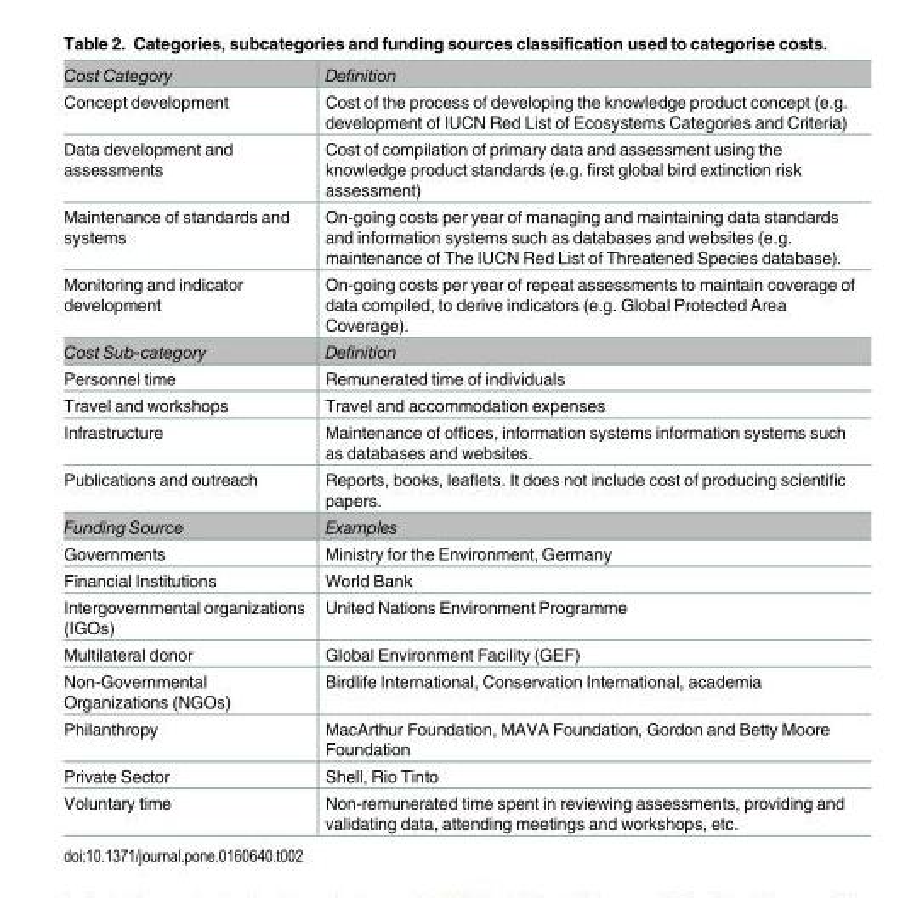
<table><tbody><tr><td>Cost Category</td><td>Definition</td></tr><tr><td>Concept development</td><td>Cost of the process of developing the knowledge product concept (e.g. development of IUCN Red List of Ecosystems Categories and Criteria)</td></tr><tr><td>Data development and assessments</td><td>Cost of compilation of primary data and assessment using the knowledge product standards (e.g. first global bird extinction risk assessment)</td></tr><tr><td>Maintenance of standards and systems</td><td>On-going costs per year of managing and maintaining data standards and information systems such as databases and websites (e.g. maintenance of The IUCN Red List of Threatened Species database).</td></tr><tr><td>Monitoring and indicator development</td><td>On-going costs per year of repeat assessments to maintain coverage of data compiled, to derive indicators (e.g. Global Protected Area Coverage).</td></tr><tr><td>Cost Sub-category</td><td>Definition</td></tr><tr><td>Personnel time</td><td>Remunerated time of individuals</td></tr><tr><td>Travel and workshops</td><td>Travel and accommodation expenses</td></tr><tr><td>Infrastructure</td><td>Maintenance of offices, information systems information systems such as databases and websites.</td></tr><tr><td>Publications and outreach</td><td>Reports, books, leaflets. It does not include cost of producing scientific papers.</td></tr><tr><td>Funding Source</td><td>Examples</td></tr><tr><td>Governments</td><td>Ministry for the Environment, Germany</td></tr><tr><td>Financial Institutions</td><td>World Bank</td></tr><tr><td>Intergovernmental organizations (IGOs)</td><td>United Nations Environment Programme</td></tr><tr><td>Multilateral donor</td><td>Global Environment Facility (GEF)</td></tr><tr><td>Non-Governmental Organizations (NGOs)</td><td>Birdlife International, Conservation International, academia</td></tr><tr><td>Philanthropy</td><td>MacArthur Foundation, MAVA Foundation, Gordon and Betty Moore Foundation</td></tr><tr><td>Private Sector</td><td>Shell, Rio Tinto</td></tr><tr><td>Voluntary time</td><td>Non-remunerated time spent in reviewing assessments, providing and validating data, attending meetings and workshops, etc.</td></tr></tbody></table>